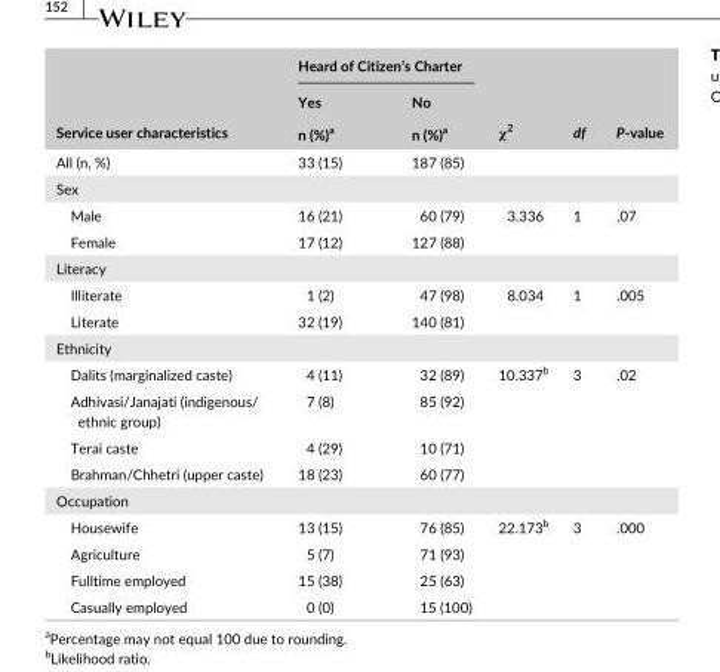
<table><thead><tr><td rowspan="3">Service user characteristics</td><td colspan="2">Heard of Citizen’s Charter</td><td rowspan="3">χ<sup>2</sup></td><td rowspan="3">df</td><td rowspan="3">P- value</td></tr><tr><td rowspan="2">Yes n (%)<sup>a</sup></td><td rowspan="2">No n (%)<sup>a</sup></td></tr><tr></tr></thead><tbody><tr><td>All (n, %)</td><td>33 (15)</td><td>187 (85)</td><td></td><td></td><td></td></tr><tr><td colspan="6">Sex</td></tr><tr><td>Male</td><td>16 (21)</td><td>60 (79)</td><td rowspan="2">3.336</td><td rowspan="2">1</td><td rowspan="2">.07</td></tr><tr><td>Female</td><td>17 (12)</td><td>127 (88)</td></tr><tr><td colspan="6">Literacy</td></tr><tr><td>Illiterate</td><td>1 (2)</td><td>47 (98)</td><td rowspan="2">8.034</td><td rowspan="2">1</td><td rowspan="2">.005</td></tr><tr><td>Literate</td><td>32 (19)</td><td>140 (81)</td></tr><tr><td colspan="6">Ethnicity</td></tr><tr><td>Dalits (marginalized caste)</td><td>4 (11)</td><td>32 (89)</td><td rowspan="4">10.337<sup>b</sup></td><td rowspan="4">3</td><td rowspan="4">.02</td></tr><tr><td>Adhivasi/Janajati (indigenous/ ethnic group)</td><td>7 (8)</td><td>85 (92)</td></tr><tr><td>Terai caste</td><td>4 (29)</td><td>10 (71)</td></tr><tr><td>Brahman/Chhetri (upper caste)</td><td>18 (23)</td><td>60 (77)</td></tr><tr><td colspan="6">Occupation</td></tr><tr><td>Housewife</td><td>13 (15)</td><td>76 (85)</td><td rowspan="4">22.173<sup>b</sup></td><td rowspan="4">3</td><td rowspan="4">.000</td></tr><tr><td>Agriculture</td><td>5 (7)</td><td>71 (93)</td></tr><tr><td>Fulltime employed</td><td>15 (38)</td><td>25 (63)</td></tr><tr><td>Casually employed</td><td>0 (0)</td><td>15 (100)</td></tr></tbody></table>